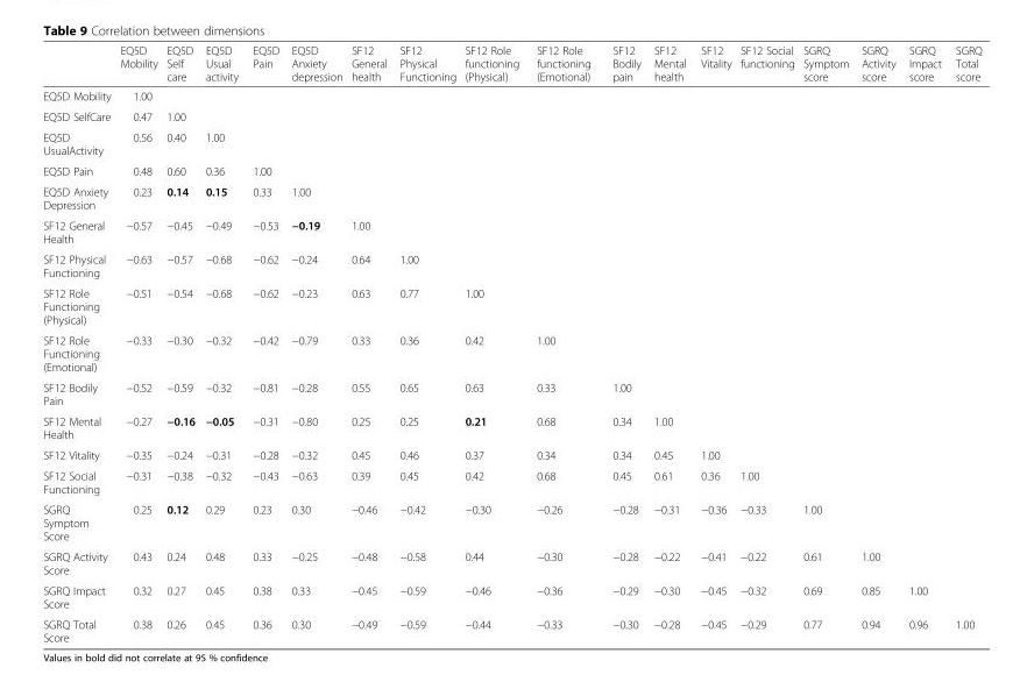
<table><thead><tr><td></td><td>EQ5D Mobility</td><td>EQ5D Self care</td><td>EQ5D Usual activity</td><td>EQ5D Pain</td><td>EQ5D Anxiety depression</td><td>SF12 General health</td><td>SF12 Physical Functioning</td><td>SF12 Role functioning (Physical)</td><td>SF12 Role functioning (Emotional)</td><td>SF12 Bodily pain</td><td>SF12 Mental health</td><td>SF12 Vitality</td><td>SF12 Social functioning</td><td>SGRQ Symptom score</td><td>SGRQ Activity score</td><td>SGRQ Impact score</td><td>SGRQ Total score</td></tr></thead><tbody><tr><td>EQ5D Mobility</td><td>1.00</td><td></td><td></td><td></td><td></td><td></td><td></td><td></td><td></td><td></td><td></td><td></td><td></td><td></td><td></td><td></td><td></td></tr><tr><td>EQ5D SelfCare</td><td>0.47</td><td>1.00</td><td></td><td></td><td></td><td></td><td></td><td></td><td></td><td></td><td></td><td></td><td></td><td></td><td></td><td></td><td></td></tr><tr><td>EQ5D UsualActivity</td><td>0.56</td><td>0.40</td><td>1.00</td><td></td><td></td><td></td><td></td><td></td><td></td><td></td><td></td><td></td><td></td><td></td><td></td><td></td><td></td></tr><tr><td>EQ5D Pain</td><td>0.48</td><td>0.60</td><td>0.36</td><td>1.00</td><td></td><td></td><td></td><td></td><td></td><td></td><td></td><td></td><td></td><td></td><td></td><td></td><td></td></tr><tr><td>EQ5D Anxiety Depression</td><td>0.23</td><td>0.14</td><td>0.15</td><td>0.33</td><td>1.00</td><td></td><td></td><td></td><td></td><td></td><td></td><td></td><td></td><td></td><td></td><td></td><td></td></tr><tr><td>SF12 General Health</td><td>−0.57</td><td>−0.45</td><td>−0.49</td><td>−0.53</td><td>−0.19</td><td>1.00</td><td></td><td></td><td></td><td></td><td></td><td></td><td></td><td></td><td></td><td></td><td></td></tr><tr><td>SF12 Physical Functioning</td><td>−0.63</td><td>−0.57</td><td>−0.68</td><td>−0.62</td><td>−0.24</td><td>0.64</td><td>1.00</td><td></td><td></td><td></td><td></td><td></td><td></td><td></td><td></td><td></td><td></td></tr><tr><td>SF12 Role Functioning (Physical)</td><td>−0.51</td><td>−0.54</td><td>−0.68</td><td>−0.62</td><td>−0.23</td><td>0.63</td><td>0.77</td><td>1.00</td><td></td><td></td><td></td><td></td><td></td><td></td><td></td><td></td><td></td></tr><tr><td>SF12 Role Functioning (Emotional)</td><td>−0.33</td><td>−0.30</td><td>−0.32</td><td>−0.42</td><td>−0.79</td><td>0.33</td><td>0.36</td><td>0.42</td><td>1.00</td><td></td><td></td><td></td><td></td><td></td><td></td><td></td><td></td></tr><tr><td>SF12 Bodily Pain</td><td>−0.52</td><td>−0.59</td><td>−0.32</td><td>−0.81</td><td>−0.28</td><td>0.55</td><td>0.65</td><td>0.63</td><td>0.33</td><td>1.00</td><td></td><td></td><td></td><td></td><td></td><td></td><td></td></tr><tr><td>SF12 Mental Health</td><td>−0.27</td><td>−0.16</td><td>−0.05</td><td>−0.31</td><td>−0.80</td><td>0.25</td><td>0.25</td><td>0.21</td><td>0.68</td><td>0.34</td><td>1.00</td><td></td><td></td><td></td><td></td><td></td><td></td></tr><tr><td>SF12 Vitality</td><td>−0.35</td><td>−0.24</td><td>−0.31</td><td>−0.28</td><td>−0.32</td><td>0.45</td><td>0.46</td><td>0.37</td><td>0.34</td><td>0.34</td><td>0.45</td><td>1.00</td><td></td><td></td><td></td><td></td><td></td></tr><tr><td>SF12 Social Functioning</td><td>−0.31</td><td>−0.38</td><td>−0.32</td><td>−0.43</td><td>−0.63</td><td>0.39</td><td>0.45</td><td>0.42</td><td>0.68</td><td>0.45</td><td>0.61</td><td>0.36</td><td>1.00</td><td></td><td></td><td></td><td></td></tr><tr><td>SGRQ Symptom Score</td><td>0.25</td><td>0.12</td><td>0.29</td><td>0.23</td><td>0.30</td><td>−0.46</td><td>−0.42</td><td>−0.30</td><td>−0.26</td><td>−0.28</td><td>−0.31</td><td>−0.36</td><td>−0.33</td><td>1.00</td><td></td><td></td><td></td></tr><tr><td>SGRQ Activity Score</td><td>0.43</td><td>0.24</td><td>0.48</td><td>0.33</td><td>−0.25</td><td>−0.48</td><td>−0.58</td><td>0.44</td><td>−0.30</td><td>−0.28</td><td>−0.22</td><td>−0.41</td><td>−0.22</td><td>0.61</td><td>1.00</td><td></td><td></td></tr><tr><td>SGRQ Impact Score</td><td>0.32</td><td>0.27</td><td>0.45</td><td>0.38</td><td>0.33</td><td>−0.45</td><td>−0.59</td><td>−0.46</td><td>−0.36</td><td>−0.29</td><td>−0.30</td><td>−0.45</td><td>−0.32</td><td>0.69</td><td>0.85</td><td>1.00</td><td></td></tr><tr><td>SGRQ Total Score</td><td>0.38</td><td>0.26</td><td>0.45</td><td>0.36</td><td>0.30</td><td>−0.49</td><td>−0.59</td><td>−0.44</td><td>−0.33</td><td>−0.30</td><td>−0.28</td><td>−0.45</td><td>−0.29</td><td>0.77</td><td>0.94</td><td>0.96</td><td>1.00</td></tr></tbody></table>